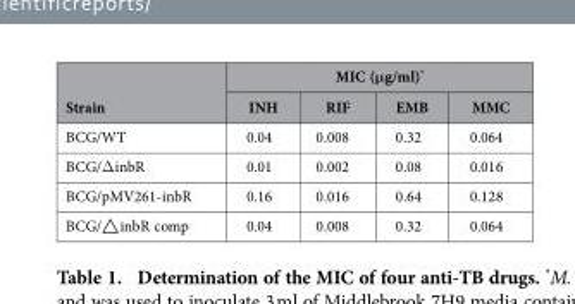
<table><thead><tr><td rowspan="2">Strain</td><td colspan="4">MIC (μg/ml)*</td></tr><tr><td>INH</td><td>RIF</td><td>EMB</td><td>MMC</td></tr></thead><tbody><tr><td>BCG/WT</td><td>0.04</td><td>0.008</td><td>0.32</td><td>0.064</td></tr><tr><td>BCG/Δ inbR</td><td>0.01</td><td>0.002</td><td>0.08</td><td>0.016</td></tr><tr><td>BCG/pMV261-inbR</td><td>0.16</td><td>0.016</td><td>0.64</td><td>0.128</td></tr><tr><td>BCG/△ inbR comp</td><td>0.04</td><td>0.008</td><td>0.32</td><td>0.064</td></tr></tbody></table>